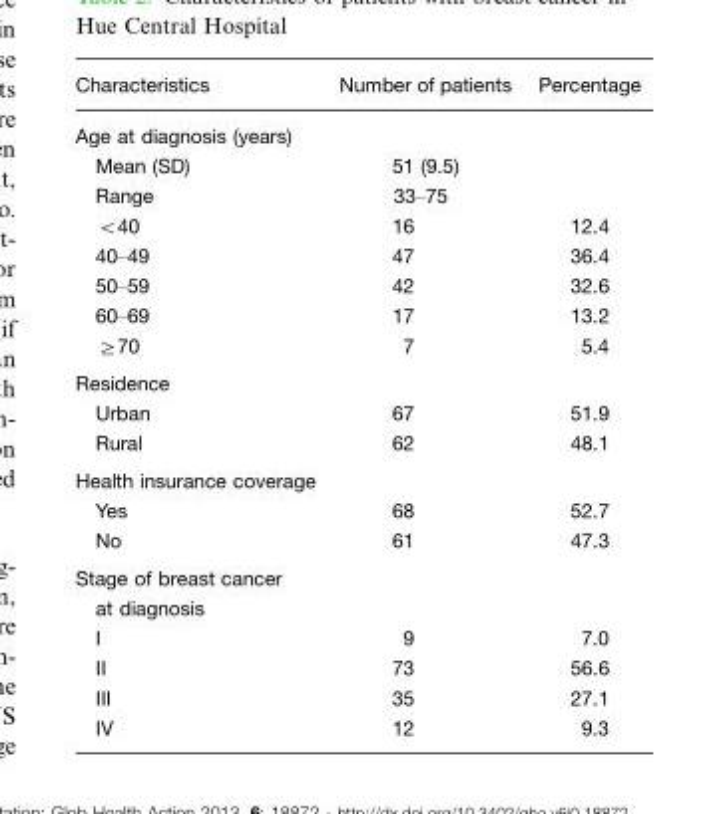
<table><thead><tr><td>Characteristics</td><td>Number of patients</td><td>Percentage</td></tr></thead><tbody><tr><td colspan="3">Age at diagnosis (years)</td></tr><tr><td>Mean (SD)</td><td>51 (9.5)</td><td></td></tr><tr><td>Range</td><td>33–75</td><td></td></tr><tr><td>&lt;40</td><td>16</td><td>12.4</td></tr><tr><td>40–49</td><td>47</td><td>36.4</td></tr><tr><td>50–59</td><td>42</td><td>32.6</td></tr><tr><td>60–69</td><td>17</td><td>13.2</td></tr><tr><td>≥70</td><td>7</td><td>5.4</td></tr><tr><td colspan="3">Residence</td></tr><tr><td>Urban</td><td>67</td><td>51.9</td></tr><tr><td>Rural</td><td>62</td><td>48.1</td></tr><tr><td colspan="3">Health insurance coverage</td></tr><tr><td>Yes</td><td>68</td><td>52.7</td></tr><tr><td>No</td><td>61</td><td>47.3</td></tr><tr><td colspan="3">Stage of breast cancer at diagnosis</td></tr><tr><td>I</td><td>9</td><td>7.0</td></tr><tr><td>II</td><td>73</td><td>56.6</td></tr><tr><td>III</td><td>35</td><td>27.1</td></tr><tr><td>IV</td><td>12</td><td>9.3</td></tr></tbody></table>